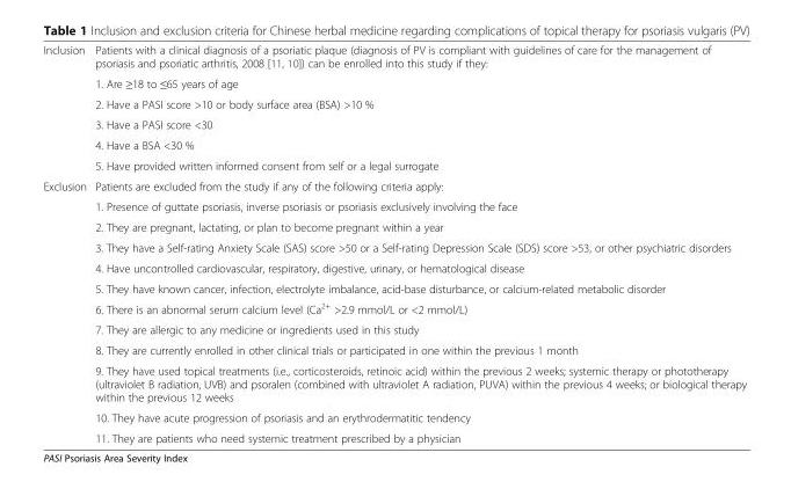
<table><tbody><tr><td rowspan="6">Inclusion</td><td>Patients with a clinical diagnosis of a psoriatic plaque (diagnosis of PV is compliant with guidelines of care for the management of psoriasis and psoriatic arthritis, 2008 [11, 10]) can be enrolled into this study if they:</td></tr><tr><td>1. Are ≥18 to ≤65 years of age</td></tr><tr><td>2. Have a PASI score &gt;10 or body surface area (BSA) &gt;10 %</td></tr><tr><td>3. Have a PASI score &lt;30</td></tr><tr><td>4. Have a BSA &lt;30 %</td></tr><tr><td>5. Have provided written informed consent from self or a legal surrogate</td></tr><tr><td rowspan="12">Exclusion</td><td>Patients are excluded from the study if any of the following criteria apply:</td></tr><tr><td>1. Presence of guttate psoriasis, inverse psoriasis or psoriasis exclusively involving the face</td></tr><tr><td>2. They are pregnant, lactating, or plan to become pregnant within a year</td></tr><tr><td>3. They have a Self-rating Anxiety Scale (SAS) score &gt;50 or a Self-rating Depression Scale (SDS) score &gt;53, or other psychiatric disorders</td></tr><tr><td>4. Have uncontrolled cardiovascular, respiratory, digestive, urinary, or hematological disease</td></tr><tr><td>5. They have known cancer, infection, electrolyte imbalance, acid-base disturbance, or calcium-related metabolic disorder</td></tr><tr><td>6. There is an abnormal serum calcium level (Ca<sup>2+</sup> &gt;2.9 mmol/L or &lt;2 mmol/L)</td></tr><tr><td>7. They are allergic to any medicine or ingredients used in this study</td></tr><tr><td>8. They are currently enrolled in other clinical trials or participated in one within the previous 1 month</td></tr><tr><td>9. They have used topical treatments (i.e., corticosteroids, retinoic acid) within the previous 2 weeks; systemic therapy or phototherapy (ultraviolet B radiation, UVB) and psoralen (combined with ultraviolet A radiation, PUVA) within the previous 4 weeks; or biological therapy within the previous 12 weeks</td></tr><tr><td>10. They have acute progression of psoriasis and an erythrodermatitic tendency</td></tr><tr><td>11. They are patients who need systemic treatment prescribed by a physician</td></tr></tbody></table>